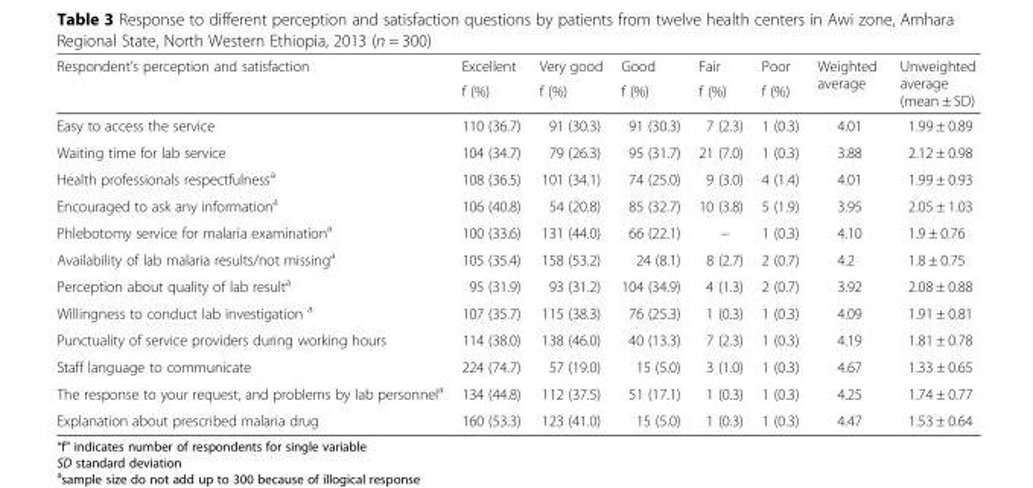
<table><thead><tr><td rowspan="2">Respondent’s perception and satisfaction</td><td rowspan="2">Excellent f (%)</td><td rowspan="2">Very good f (%)</td><td rowspan="2">Good f (%)</td><td rowspan="2">Fair f (%)</td><td rowspan="2">Poor f (%)</td><td rowspan="2">Weighted average</td><td rowspan="2">Unweighted average (mean ± SD)</td></tr><tr></tr></thead><tbody><tr><td>Easy to access the service</td><td>110 (36.7)</td><td>91 (30.3)</td><td>91 (30.3)</td><td>7 (2.3)</td><td>1 (0.3)</td><td>4.01</td><td>1.99 ± 0.89</td></tr><tr><td>Waiting time for lab service</td><td>104 (34.7)</td><td>79 (26.3)</td><td>95 (31.7)</td><td>21 (7.0)</td><td>1 (0.3)</td><td>3.88</td><td>2.12 ± 0.98</td></tr><tr><td>Health professionals respectfulness<sup>a</sup></td><td>108 (36.5)</td><td>101 (34.1)</td><td>74 (25.0)</td><td>9 (3.0)</td><td>4 (1.4)</td><td>4.01</td><td>1.99 ± 0.93</td></tr><tr><td>Encouraged to ask any information<sup>a</sup></td><td>106 (40.8)</td><td>54 (20.8)</td><td>85 (32.7)</td><td>10 (3.8)</td><td>5 (1.9)</td><td>3.95</td><td>2.05 ± 1.03</td></tr><tr><td>Phlebotomy service for malaria examination<sup>a</sup></td><td>100 (33.6)</td><td>131 (44.0)</td><td>66 (22.1)</td><td>−</td><td>1 (0.3)</td><td>4.10</td><td>1.9 ± 0.76</td></tr><tr><td>Availability of lab malaria results/not missing<sup>a</sup></td><td>105 (35.4)</td><td>158 (53.2)</td><td>24 (8.1)</td><td>8 (2.7)</td><td>2 (0.7)</td><td>4.2</td><td>1.8 ± 0.75</td></tr><tr><td>Perception about quality of lab result<sup>a</sup></td><td>95 (31.9)</td><td>93 (31.2)</td><td>104 (34.9)</td><td>4 (1.3)</td><td>2 (0.7)</td><td>3.92</td><td>2.08 ± 0.88</td></tr><tr><td>Willingness to conduct lab investigation <sup>a</sup></td><td>107 (35.7)</td><td>115 (38.3)</td><td>76 (25.3)</td><td>1 (0.3)</td><td>1 (0.3)</td><td>4.09</td><td>1.91 ± 0.81</td></tr><tr><td>Punctuality of service providers during working hours</td><td>114 (38.0)</td><td>138 (46.0)</td><td>40 (13.3)</td><td>7 (2.3)</td><td>1 (0.3)</td><td>4.19</td><td>1.81 ± 0.78</td></tr><tr><td>Staff language to communicate</td><td>224 (74.7)</td><td>57 (19.0)</td><td>15 (5.0)</td><td>3 (1.0)</td><td>1 (0.3)</td><td>4.67</td><td>1.33 ± 0.65</td></tr><tr><td>The response to your request, and problems by lab personnel<sup>a</sup></td><td>134 (44.8)</td><td>112 (37.5)</td><td>51 (17.1)</td><td>1 (0.3)</td><td>1 (0.3)</td><td>4.25</td><td>1.74 ± 0.77</td></tr><tr><td>Explanation about prescribed malaria drug</td><td>160 (53.3)</td><td>123 (41.0)</td><td>15 (5.0)</td><td>1 (0.3)</td><td>1 (0.3)</td><td>4.47</td><td>1.53 ± 0.64</td></tr></tbody></table>